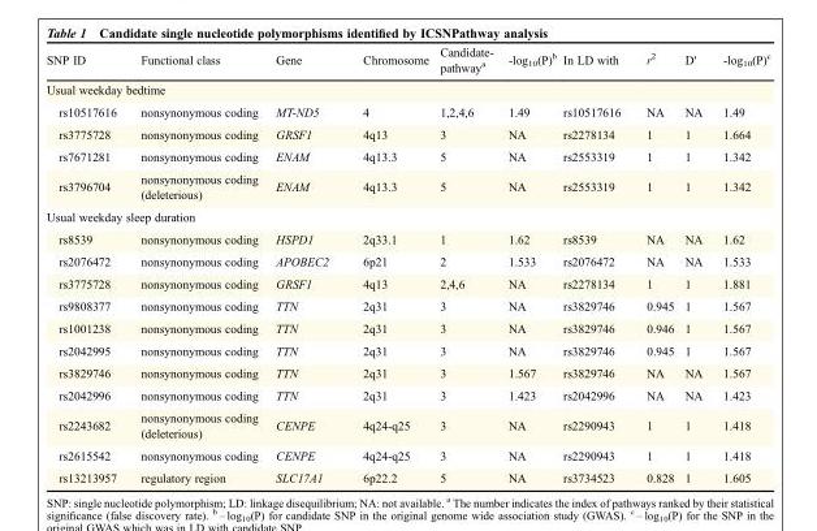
<table><thead><tr><td>SNP ID</td><td>Functional class</td><td>Gene</td><td>Chromosome</td><td>Candidate- pathway<sup>a</sup></td><td>-log<sub>10</sub>(P)<sup>b</sup></td><td>In LD with</td><td>r<sup>2</sup></td><td>D&#x27;</td><td>-log<sub>10</sub>(P)<sup>c</sup></td></tr></thead><tbody><tr><td colspan="10">Usual weekday bedtime</td></tr><tr><td>rs10517616</td><td>nonsynonymous coding</td><td>MT-ND5</td><td>4</td><td>1,2,4,6</td><td>1.49</td><td>rs10517616</td><td>NA</td><td>NA</td><td>1.49</td></tr><tr><td>rs3775728</td><td>nonsynonymous coding</td><td>GRSF1</td><td>4q13</td><td>3</td><td>NA</td><td>rs2278134</td><td>1</td><td>1</td><td>1.664</td></tr><tr><td>rs7671281</td><td>nonsynonymous coding</td><td>ENAM</td><td>4q13.3</td><td>5</td><td>NA</td><td>rs2553319</td><td>1</td><td>1</td><td>1.342</td></tr><tr><td>rs3796704</td><td>nonsynonymous coding (deleterious)</td><td>ENAM</td><td>4q13.3</td><td>5</td><td>NA</td><td>rs2553319</td><td>1</td><td>1</td><td>1.342</td></tr><tr><td colspan="10">Usual weekday sleep duration</td></tr><tr><td>rs8539</td><td>nonsynonymous coding</td><td>HSPD1</td><td>2q33.1</td><td>1</td><td>1.62</td><td>rs8539</td><td>NA</td><td>NA</td><td>1.62</td></tr><tr><td>rs2076472</td><td>nonsynonymous coding</td><td>APOBEC2</td><td>6p21</td><td>2</td><td>1.533</td><td>rs2076472</td><td>NA</td><td>NA</td><td>1.533</td></tr><tr><td>rs3775728</td><td>nonsynonymous coding</td><td>GRSF1</td><td>4q13</td><td>2,4,6</td><td>NA</td><td>rs2278134</td><td>1</td><td>1</td><td>1.881</td></tr><tr><td>rs9808377</td><td>nonsynonymous coding</td><td>TTN</td><td>2q31</td><td>3</td><td>NA</td><td>rs3829746</td><td>0.945</td><td>1</td><td>1.567</td></tr><tr><td>rs1001238</td><td>nonsynonymous coding</td><td>TTN</td><td>2q31</td><td>3</td><td>NA</td><td>rs3829746</td><td>0.946</td><td>1</td><td>1.567</td></tr><tr><td>rs2042995</td><td>nonsynonymous coding</td><td>TTN</td><td>2q31</td><td>3</td><td>NA</td><td>rs3829746</td><td>0.945</td><td>1</td><td>1.567</td></tr><tr><td>rs3829746</td><td>nonsynonymous coding</td><td>TTN</td><td>2q31</td><td>3</td><td>1.567</td><td>rs3829746</td><td>NA</td><td>NA</td><td>1.567</td></tr><tr><td>rs2042996</td><td>nonsynonymous coding</td><td>TTN</td><td>2q31</td><td>3</td><td>1.423</td><td>rs2042996</td><td>NA</td><td>NA</td><td>1.423</td></tr><tr><td>rs2243682</td><td>nonsynonymous coding (deleterious)</td><td>CENPE</td><td>4q24-q25</td><td>3</td><td>NA</td><td>rs2290943</td><td>1</td><td>1</td><td>1.418</td></tr><tr><td>rs2615542</td><td>nonsynonymous coding</td><td>CENPE</td><td>4q24-q25</td><td>3</td><td>NA</td><td>rs2290943</td><td>1</td><td>1</td><td>1.418</td></tr><tr><td>rs13213957</td><td>regulatory region</td><td>SLC17A1</td><td>6p22.2</td><td>5</td><td>NA</td><td>rs3734523</td><td>0.828</td><td>1</td><td>1.605</td></tr></tbody></table>